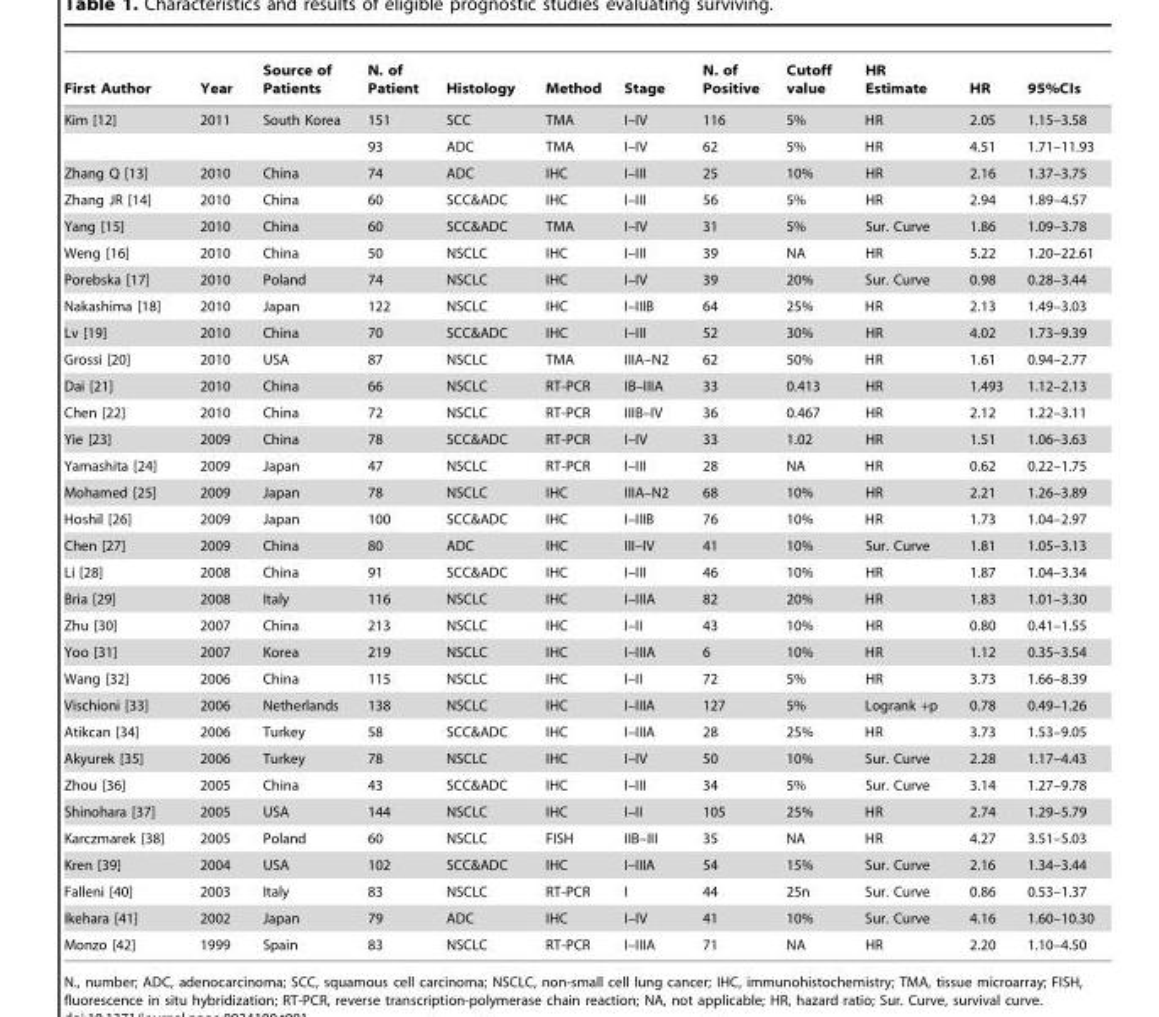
<table><thead><tr><td>First Author</td><td>Year</td><td>Source of Patients</td><td>N. of Patient</td><td>Histology</td><td>Method</td><td>Stage</td><td>N. of Positive</td><td>Cutoff value</td><td>HR Estimate</td><td>HR</td><td>95%CIs</td></tr></thead><tbody><tr><td rowspan="2">Kim [12]</td><td>2011</td><td>South Korea</td><td>151</td><td>SCC</td><td>TMA</td><td>I–IV</td><td>116</td><td>5%</td><td>HR</td><td>2.05</td><td>1.15–3.58</td></tr><tr><td></td><td></td><td>93</td><td>ADC</td><td>TMA</td><td>I–IV</td><td>62</td><td>5%</td><td>HR</td><td>4.51</td><td>1.71–11.93</td></tr><tr><td>Zhang Q [13]</td><td>2010</td><td>China</td><td>74</td><td>ADC</td><td>IHC</td><td>I–III</td><td>25</td><td>10%</td><td>HR</td><td>2.16</td><td>1.37–3.75</td></tr><tr><td>Zhang JR [14]</td><td>2010</td><td>China</td><td>60</td><td>SCC&amp;ADC</td><td>IHC</td><td>I–III</td><td>56</td><td>5%</td><td>HR</td><td>2.94</td><td>1.89–4.57</td></tr><tr><td>Yang [15]</td><td>2010</td><td>China</td><td>60</td><td>SCC&amp;ADC</td><td>TMA</td><td>I–IV</td><td>31</td><td>5%</td><td>Sur. Curve</td><td>1.86</td><td>1.09–3.78</td></tr><tr><td>Weng [16]</td><td>2010</td><td>China</td><td>50</td><td>NSCLC</td><td>IHC</td><td>I–III</td><td>39</td><td>NA</td><td>HR</td><td>5.22</td><td>1.20–22.61</td></tr><tr><td>Porebska [17]</td><td>2010</td><td>Poland</td><td>74</td><td>NSCLC</td><td>IHC</td><td>I–IV</td><td>39</td><td>20%</td><td>Sur. Curve</td><td>0.98</td><td>0.28–3.44</td></tr><tr><td>Nakashima [18]</td><td>2010</td><td>Japan</td><td>122</td><td>NSCLC</td><td>IHC</td><td>I–IIIB</td><td>64</td><td>25%</td><td>HR</td><td>2.13</td><td>1.49–3.03</td></tr><tr><td>Lv [19]</td><td>2010</td><td>China</td><td>70</td><td>SCC&amp;ADC</td><td>IHC</td><td>I–III</td><td>52</td><td>30%</td><td>HR</td><td>4.02</td><td>1.73–9.39</td></tr><tr><td>Grossi [20]</td><td>2010</td><td>USA</td><td>87</td><td>NSCLC</td><td>TMA</td><td>IIIA–N2</td><td>62</td><td>50%</td><td>HR</td><td>1.61</td><td>0.94–2.77</td></tr><tr><td>Dai [21]</td><td>2010</td><td>China</td><td>66</td><td>NSCLC</td><td>RT-PCR</td><td>IB–IIIA</td><td>33</td><td>0.413</td><td>HR</td><td>1.493</td><td>1.12–2.13</td></tr><tr><td>Chen [22]</td><td>2010</td><td>China</td><td>72</td><td>NSCLC</td><td>RT-PCR</td><td>IIIB–IV</td><td>36</td><td>0.467</td><td>HR</td><td>2.12</td><td>1.22–3.11</td></tr><tr><td>Yie [23]</td><td>2009</td><td>China</td><td>78</td><td>SCC&amp;ADC</td><td>RT-PCR</td><td>I–IV</td><td>33</td><td>1.02</td><td>HR</td><td>1.51</td><td>1.06–3.63</td></tr><tr><td>Yamashita [24]</td><td>2009</td><td>Japan</td><td>47</td><td>NSCLC</td><td>RT-PCR</td><td>I–III</td><td>28</td><td>NA</td><td>HR</td><td>0.62</td><td>0.22–1.75</td></tr><tr><td>Mohamed [25]</td><td>2009</td><td>Japan</td><td>78</td><td>NSCLC</td><td>IHC</td><td>IIIA–N2</td><td>68</td><td>10%</td><td>HR</td><td>2.21</td><td>1.26–3.89</td></tr><tr><td>Hoshil [26]</td><td>2009</td><td>Japan</td><td>100</td><td>SCC&amp;ADC</td><td>IHC</td><td>I–IIIB</td><td>76</td><td>10%</td><td>HR</td><td>1.73</td><td>1.04–2.97</td></tr><tr><td>Chen [27]</td><td>2009</td><td>China</td><td>80</td><td>ADC</td><td>IHC</td><td>III–IV</td><td>41</td><td>10%</td><td>Sur. Curve</td><td>1.81</td><td>1.05–3.13</td></tr><tr><td>Li [28]</td><td>2008</td><td>China</td><td>91</td><td>SCC&amp;ADC</td><td>IHC</td><td>I–III</td><td>46</td><td>10%</td><td>HR</td><td>1.87</td><td>1.04–3.34</td></tr><tr><td>Bria [29]</td><td>2008</td><td>Italy</td><td>116</td><td>NSCLC</td><td>IHC</td><td>I–IIIA</td><td>82</td><td>20%</td><td>HR</td><td>1.83</td><td>1.01–3.30</td></tr><tr><td>Zhu [30]</td><td>2007</td><td>China</td><td>213</td><td>NSCLC</td><td>IHC</td><td>I–II</td><td>43</td><td>10%</td><td>HR</td><td>0.80</td><td>0.41–1.55</td></tr><tr><td>Yoo [31]</td><td>2007</td><td>Korea</td><td>219</td><td>NSCLC</td><td>IHC</td><td>I–IIIA</td><td>6</td><td>10%</td><td>HR</td><td>1.12</td><td>0.35–3.54</td></tr><tr><td>Wang [32]</td><td>2006</td><td>China</td><td>115</td><td>NSCLC</td><td>IHC</td><td>I–II</td><td>72</td><td>5%</td><td>HR</td><td>3.73</td><td>1.66–8.39</td></tr><tr><td>Vischioni [33]</td><td>2006</td><td>Netherlands</td><td>138</td><td>NSCLC</td><td>IHC</td><td>I–IIIA</td><td>127</td><td>5%</td><td>Logrank +p</td><td>0.78</td><td>0.49–1.26</td></tr><tr><td>Atikcan [34]</td><td>2006</td><td>Turkey</td><td>58</td><td>SCC&amp;ADC</td><td>IHC</td><td>I–IIIA</td><td>28</td><td>25%</td><td>HR</td><td>3.73</td><td>1.53–9.05</td></tr><tr><td>Akyurek [35]</td><td>2006</td><td>Turkey</td><td>78</td><td>NSCLC</td><td>IHC</td><td>I–IV</td><td>50</td><td>10%</td><td>Sur. Curve</td><td>2.28</td><td>1.17–4.43</td></tr><tr><td>Zhou [36]</td><td>2005</td><td>China</td><td>43</td><td>SCC&amp;ADC</td><td>IHC</td><td>I–III</td><td>34</td><td>5%</td><td>Sur. Curve</td><td>3.14</td><td>1.27–9.78</td></tr><tr><td>Shinohara [37]</td><td>2005</td><td>USA</td><td>144</td><td>NSCLC</td><td>IHC</td><td>I–II</td><td>105</td><td>25%</td><td>HR</td><td>2.74</td><td>1.29–5.79</td></tr><tr><td>Karczmarek [38]</td><td>2005</td><td>Poland</td><td>60</td><td>NSCLC</td><td>FISH</td><td>IIB–III</td><td>35</td><td>NA</td><td>HR</td><td>4.27</td><td>3.51–5.03</td></tr><tr><td>Kren [39]</td><td>2004</td><td>USA</td><td>102</td><td>SCC&amp;ADC</td><td>IHC</td><td>I–IIIA</td><td>54</td><td>15%</td><td>Sur. Curve</td><td>2.16</td><td>1.34–3.44</td></tr><tr><td>Falleni [40]</td><td>2003</td><td>Italy</td><td>83</td><td>NSCLC</td><td>RT-PCR</td><td>I</td><td>44</td><td>25n</td><td>Sur. Curve</td><td>0.86</td><td>0.53–1.37</td></tr><tr><td>Ikehara [41]</td><td>2002</td><td>Japan</td><td>79</td><td>ADC</td><td>IHC</td><td>I–IV</td><td>41</td><td>10%</td><td>Sur. Curve</td><td>4.16</td><td>1.60–10.30</td></tr><tr><td>Monzo [42]</td><td>1999</td><td>Spain</td><td>83</td><td>NSCLC</td><td>RT-PCR</td><td>I–IIIA</td><td>71</td><td>NA</td><td>HR</td><td>2.20</td><td>1.10–4.50</td></tr></tbody></table>